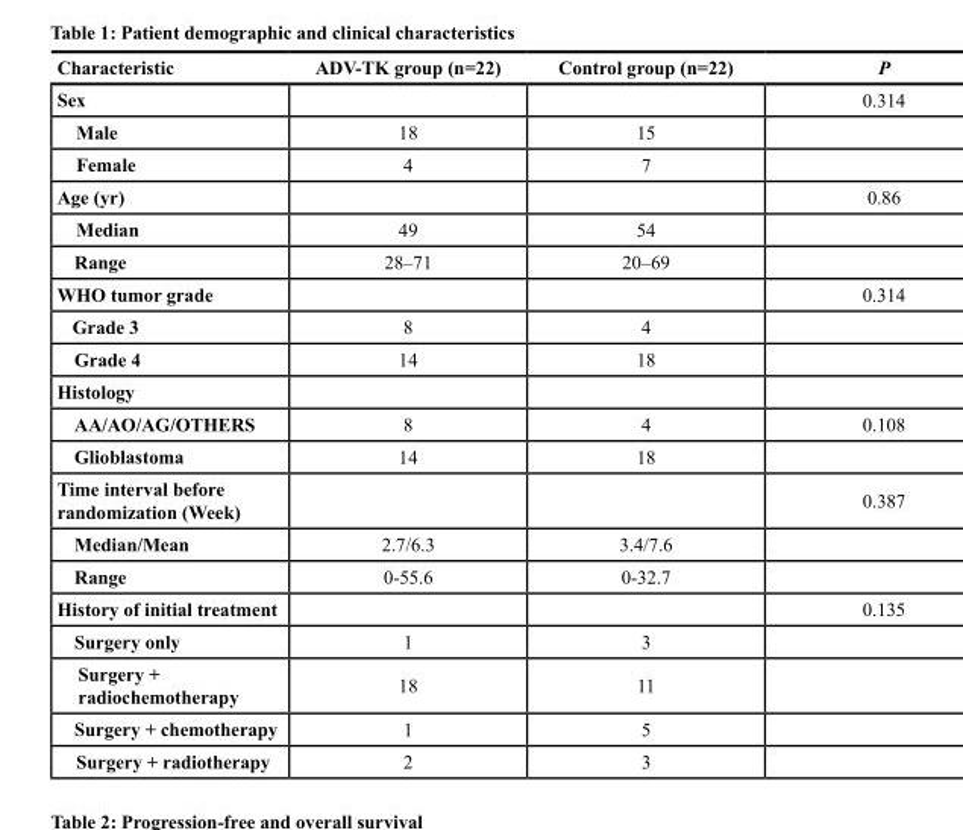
<table><thead><tr><td>Characteristic</td><td>ADV-TK group (n=22)</td><td>Control group (n=22)</td><td>P</td></tr></thead><tbody><tr><td>Sex</td><td></td><td></td><td>0.314</td></tr><tr><td>Male</td><td>18</td><td>15</td><td></td></tr><tr><td>Female</td><td>4</td><td>7</td><td></td></tr><tr><td>Age (yr)</td><td></td><td></td><td>0.86</td></tr><tr><td>Median</td><td>49</td><td>54</td><td></td></tr><tr><td>Range</td><td>28–71</td><td>20–69</td><td></td></tr><tr><td>WHO tumor grade</td><td></td><td></td><td>0.314</td></tr><tr><td>Grade 3</td><td>8</td><td>4</td><td></td></tr><tr><td>Grade 4</td><td>14</td><td>18</td><td></td></tr><tr><td colspan="4">Histology</td></tr><tr><td>AA/AO/AG/OTHERS</td><td>8</td><td>4</td><td>0.108</td></tr><tr><td>Glioblastoma</td><td>14</td><td>18</td><td></td></tr><tr><td>Time interval before randomization (Week)</td><td></td><td></td><td>0.387</td></tr><tr><td>Median/Mean</td><td>2.7/6.3</td><td>3.4/7.6</td><td></td></tr><tr><td>Range</td><td>0-55.6</td><td>0-32.7</td><td></td></tr><tr><td>History of initial treatment</td><td></td><td></td><td>0.135</td></tr><tr><td>Surgery only</td><td>1</td><td>3</td><td></td></tr><tr><td>Surgery + radiochemotherapy</td><td>18</td><td>11</td><td></td></tr><tr><td>Surgery + chemotherapy</td><td>1</td><td>5</td><td></td></tr><tr><td>Surgery + radiotherapy</td><td>2</td><td>3</td><td></td></tr></tbody></table>